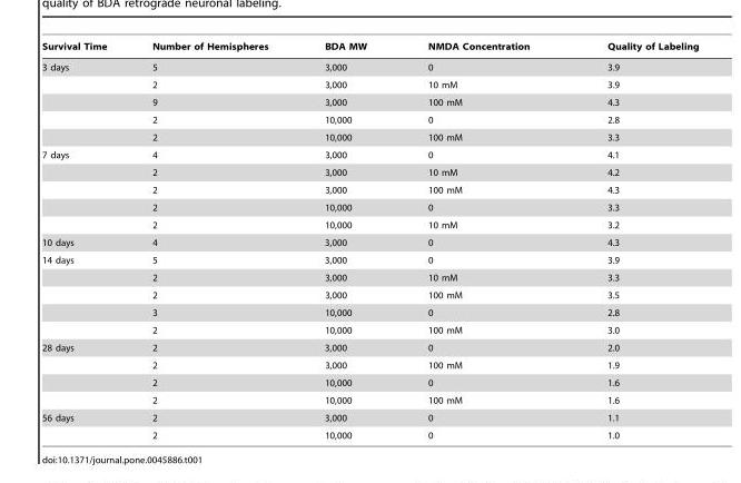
<table><thead><tr><td>Survival Time</td><td>Number of Hemispheres</td><td>BDA MW</td><td>NMDA Concentration</td><td>Quality of Labeling</td></tr></thead><tbody><tr><td rowspan="5">3 days</td><td>5</td><td>3,000</td><td>0</td><td>3.9</td></tr><tr><td>2</td><td>3,000</td><td>10 mM</td><td>3.9</td></tr><tr><td>9</td><td>3,000</td><td>100 mM</td><td>4.3</td></tr><tr><td>2</td><td>10,000</td><td>0</td><td>2.8</td></tr><tr><td>2</td><td>10,000</td><td>100 mM</td><td>3.3</td></tr><tr><td rowspan="5">7 days</td><td>4</td><td>3,000</td><td>0</td><td>4.1</td></tr><tr><td>2</td><td>3,000</td><td>10 mM</td><td>4.2</td></tr><tr><td>2</td><td>3,000</td><td>100 mM</td><td>4.3</td></tr><tr><td>2</td><td>10,000</td><td>0</td><td>3.3</td></tr><tr><td>2</td><td>10,000</td><td>10 mM</td><td>3.2</td></tr><tr><td>10 days</td><td>4</td><td>3,000</td><td>0</td><td>4.3</td></tr><tr><td rowspan="5">14 days</td><td>5</td><td>3,000</td><td>0</td><td>3.9</td></tr><tr><td>2</td><td>3,000</td><td>10 mM</td><td>3.3</td></tr><tr><td>2</td><td>3,000</td><td>100 mM</td><td>3.5</td></tr><tr><td>3</td><td>10,000</td><td>0</td><td>2.8</td></tr><tr><td>2</td><td>10,000</td><td>100 mM</td><td>3.0</td></tr><tr><td rowspan="4">28 days</td><td>2</td><td>3,000</td><td>0</td><td>2.0</td></tr><tr><td>2</td><td>3,000</td><td>100 mM</td><td>1.9</td></tr><tr><td>2</td><td>10,000</td><td>0</td><td>1.6</td></tr><tr><td>2</td><td>10,000</td><td>100 mM</td><td>1.6</td></tr><tr><td rowspan="2">56 days</td><td>2</td><td>3,000</td><td>0</td><td>1.1</td></tr><tr><td>2</td><td>10,000</td><td>0</td><td>1.0</td></tr></tbody></table>